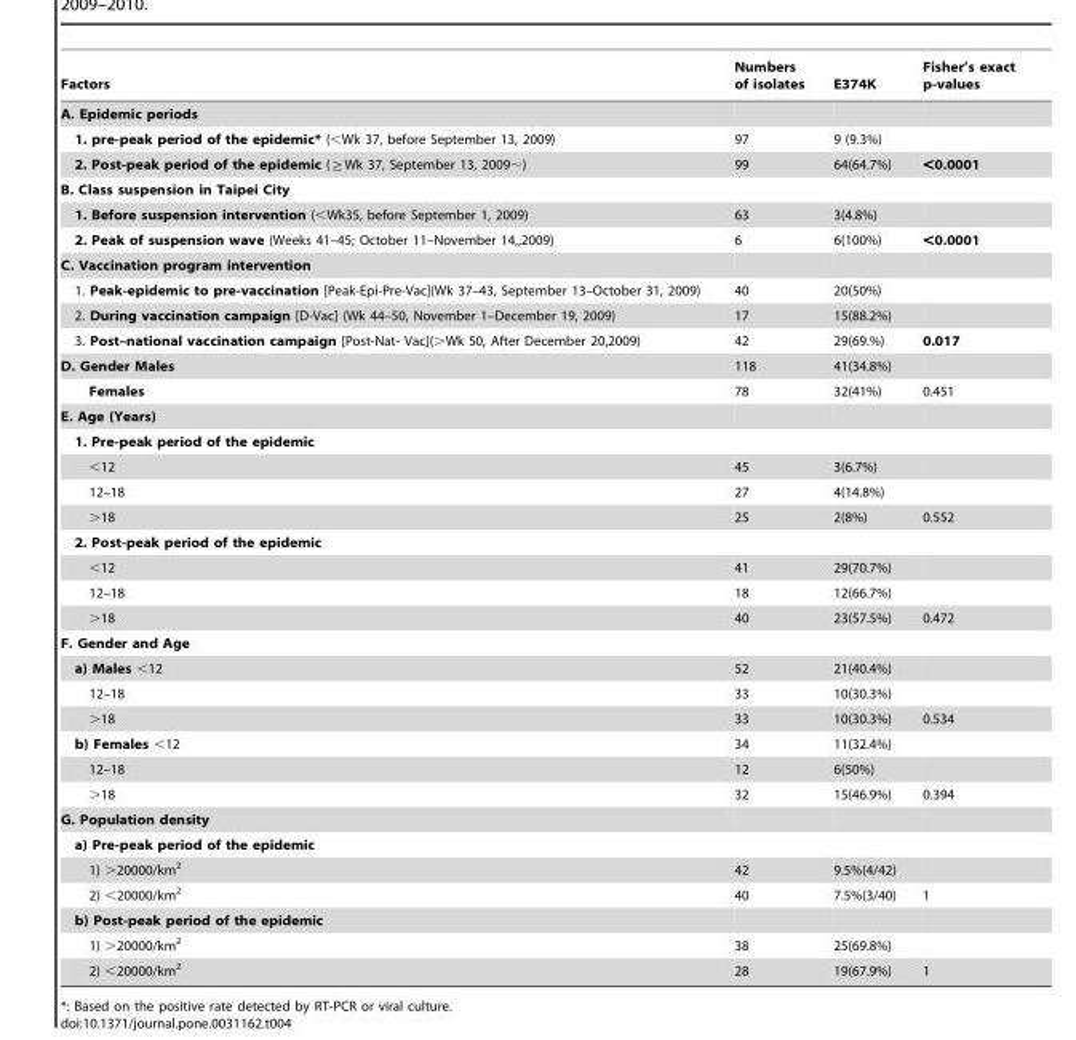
<table><thead><tr><td>Factors</td><td>Numbers of isolates</td><td>E374K</td><td>Fisher’s exact p-values</td></tr></thead><tbody><tr><td colspan="4">A. Epidemic periods</td></tr><tr><td>1. pre-peak period of the epidemic* (&lt;Wk 37, before September 13, 2009)</td><td>97</td><td>9 (9.3%)</td><td></td></tr><tr><td>2. Post-peak period of the epidemic (≧Wk 37, September 13, 2009∼)</td><td>99</td><td>64(64.7%)</td><td>&lt;0.0001</td></tr><tr><td colspan="4">B. Class suspension in Taipei City</td></tr><tr><td>1. Before suspension intervention (&lt;Wk35, before September 1, 2009)</td><td>63</td><td>3(4.8%)</td><td></td></tr><tr><td>2. Peak of suspension wave (Weeks 41–45; October 11–November 14,,2009)</td><td>6</td><td>6(100%)</td><td>&lt;0.0001</td></tr><tr><td colspan="4">C. Vaccination program intervention</td></tr><tr><td>1. Peak-epidemic to pre-vaccination [Peak-Epi-Pre-Vac](Wk 37–43, September 13–October 31, 2009)</td><td>40</td><td>20(50%)</td><td></td></tr><tr><td>2. During vaccination campaign [D-Vac] (Wk 44–50, November 1–December 19, 2009)</td><td>17</td><td>15(88.2%)</td><td></td></tr><tr><td>3. Post–national vaccination campaign [Post-Nat- Vac](&gt;Wk 50, After December 20,2009)</td><td>42</td><td>29(69.%)</td><td>0.017</td></tr><tr><td>D. Gender Males</td><td>118</td><td>41(34.8%)</td><td></td></tr><tr><td>Females</td><td>78</td><td>32(41%)</td><td>0.451</td></tr><tr><td colspan="4">E. Age (Years)</td></tr><tr><td colspan="4">1. Pre-peak period of the epidemic</td></tr><tr><td>&lt;12</td><td>45</td><td>3(6.7%)</td><td></td></tr><tr><td>12–18</td><td>27</td><td>4(14.8%)</td><td></td></tr><tr><td>&gt;18</td><td>25</td><td>2(8%)</td><td>0.552</td></tr><tr><td colspan="4">2. Post-peak period of the epidemic</td></tr><tr><td>&lt;12</td><td>41</td><td>29(70.7%)</td><td></td></tr><tr><td>12–18</td><td>18</td><td>12(66.7%)</td><td></td></tr><tr><td>&gt;18</td><td>40</td><td>23(57.5%)</td><td>0.472</td></tr><tr><td colspan="4">F. Gender and Age</td></tr><tr><td>a) Males &lt;12</td><td>52</td><td>21(40.4%)</td><td></td></tr><tr><td>12–18</td><td>33</td><td>10(30.3%)</td><td></td></tr><tr><td>&gt;18</td><td>33</td><td>10(30.3%)</td><td>0.534</td></tr><tr><td>b) Females &lt;12</td><td>34</td><td>11(32.4%)</td><td></td></tr><tr><td>12–18</td><td>12</td><td>6(50%)</td><td></td></tr><tr><td>&gt;18</td><td>32</td><td>15(46.9%)</td><td>0.394</td></tr><tr><td colspan="4">G. Population density</td></tr><tr><td colspan="4">a) Pre-peak period of the epidemic</td></tr><tr><td>1) &gt;20000/km<sup>2</sup></td><td>42</td><td>9.5%(4/42)</td><td></td></tr><tr><td>2) &lt;20000/km<sup>2</sup></td><td>40</td><td>7.5%(3/40)</td><td>1</td></tr><tr><td colspan="4">b) Post-peak period of the epidemic</td></tr><tr><td>1) &gt;20000/km<sup>2</sup></td><td>38</td><td>25(69.8%)</td><td></td></tr><tr><td>2) &lt;20000/km<sup>2</sup></td><td>28</td><td>19(67.9%)</td><td>1</td></tr></tbody></table>